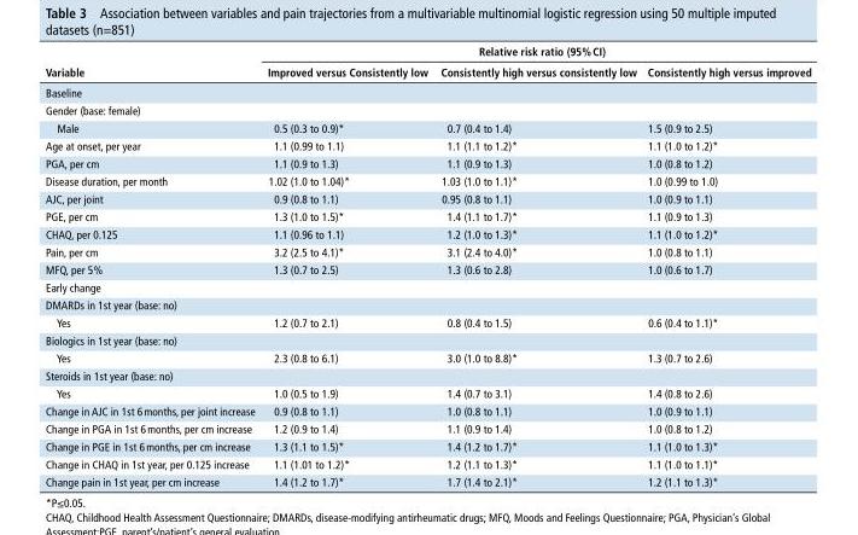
<table><thead><tr><td rowspan="2">Variable</td><td colspan="3">relative risk ratio (95% CI)</td></tr><tr><td>Improved versus Consistently low</td><td>Consistently high versus consistently low</td><td>Consistently high versus improved</td></tr></thead><tbody><tr><td colspan="4">Baseline</td></tr><tr><td colspan="4">Gender (base: female)</td></tr><tr><td>Male</td><td>0.5 (0.3 to 0.9)*</td><td>0.7 (0.4 to 1.4)</td><td>1.5 (0.9 to 2.5)</td></tr><tr><td>Age at onset, per year</td><td>1.1 (0.99 to 1.1)</td><td>1.1 (1.1 to 1.2)*</td><td>1.1 (1.0 to 1.2)*</td></tr><tr><td>PGA, per cm</td><td>1.1 (0.9 to 1.3)</td><td>1.1 (0.9 to 1.3)</td><td>1.0 (0.8 to 1.2)</td></tr><tr><td>Disease duration, per month</td><td>1.02 (1.0 to 1.04)*</td><td>1.03 (1.0 to 1.1)*</td><td>1.0 (0.99 to 1.0)</td></tr><tr><td>AJC, per joint</td><td>0.9 (0.8 to 1.1)</td><td>0.95 (0.8 to 1.1)</td><td>1.0 (0.9 to 1.1)</td></tr><tr><td>PGE, per cm</td><td>1.3 (1.0 to 1.5)*</td><td>1.4 (1.1 to 1.7)*</td><td>1.1 (0.9 to 1.3)</td></tr><tr><td>CHAQ, per 0.125</td><td>1.1 (0.96 to 1.1)</td><td>1.2 (1.0 to 1.3)*</td><td>1.1 (1.0 to 1.2)*</td></tr><tr><td>Pain, per cm</td><td>3.2 (2.5 to 4.1)*</td><td>3.1 (2.4 to 4.0)*</td><td>1.0 (0.8 to 1.1)</td></tr><tr><td>MFQ, per 5%</td><td>1.3 (0.7 to 2.5)</td><td>1.3 (0.6 to 2.8)</td><td>1.0 (0.6 to 1.7)</td></tr><tr><td colspan="4">Early change</td></tr><tr><td colspan="4">DMARDs in 1st year (base: no)</td></tr><tr><td>Yes</td><td>1.2 (0.7 to 2.1)</td><td>0.8 (0.4 to 1.5)</td><td>0.6 (0.4 to 1.1)*</td></tr><tr><td colspan="4">Biologics in 1st year (base: no)</td></tr><tr><td>Yes</td><td>2.3 (0.8 to 6.1)</td><td>3.0 (1.0 to 8.8)*</td><td>1.3 (0.7 to 2.6)</td></tr><tr><td colspan="4">Steroids in 1st year (base: no)</td></tr><tr><td>Yes</td><td>1.0 (0.5 to 1.9)</td><td>1.4 (0.7 to 3.1)</td><td>1.4 (0.8 to 2.6)</td></tr><tr><td>Change in AJC in 1st 6 months, per joint increase</td><td>0.9 (0.8 to 1.1)</td><td>1.0 (0.8 to 1.1)</td><td>1.0 (0.9 to 1.1)</td></tr><tr><td>Change in PGA in 1st 6 months, per cm increase</td><td>1.2 (0.9 to 1.4)</td><td>1.1 (0.9 to 1.4)</td><td>1.0 (0.8 to 1.2)</td></tr><tr><td>Change in PGE in 1st 6 months, per cm increase</td><td>1.3 (1.1 to 1.5)*</td><td>1.4 (1.2 to 1.7)*</td><td>1.1 (1.0 to 1.3)*</td></tr><tr><td>Change in CHAQ in 1st year, per 0.125 increase</td><td>1.1 (1.01 to 1.2)*</td><td>1.2 (1.1 to 1.3)*</td><td>1.1 (1.0 to 1.1)*</td></tr><tr><td>Change pain in 1st year, per cm increase</td><td>1.4 (1.2 to 1.7)*</td><td>1.7 (1.4 to 2.1)*</td><td>1.2 (1.1 to 1.3)*</td></tr></tbody></table>